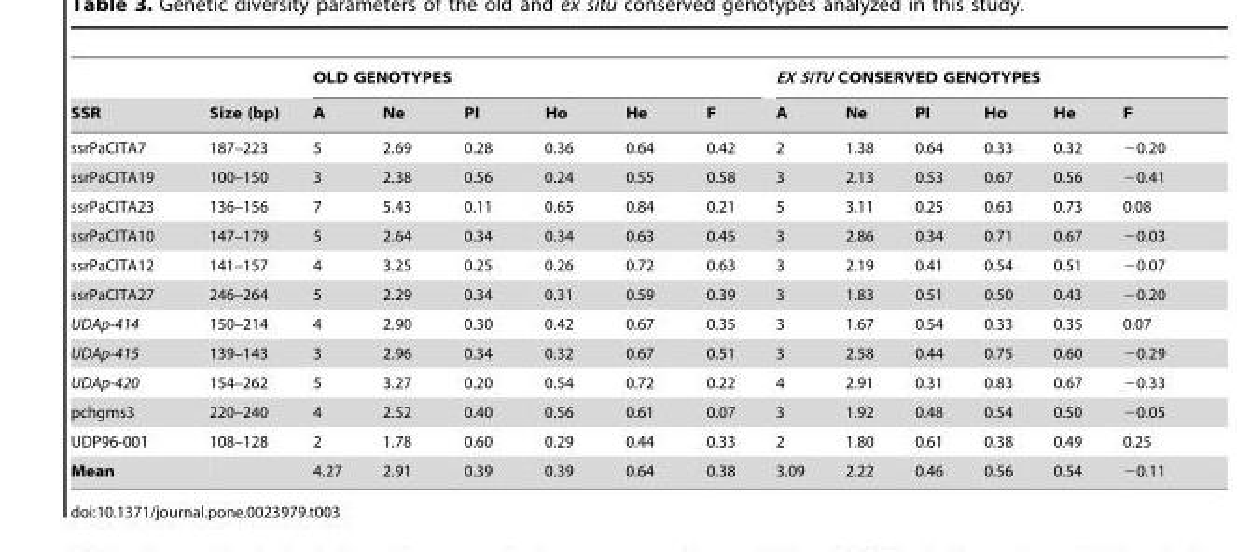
<table><thead><tr><td rowspan="2">SSR</td><td rowspan="2">Size (bp)</td><td colspan="6">OLD GENOTYPES</td><td colspan="6">EX SITU CONSERVED GENOTYPES</td></tr><tr><td>A</td><td>Ne</td><td>PI</td><td>Ho</td><td>He</td><td>F</td><td>A</td><td>Ne</td><td>PI</td><td>Ho</td><td>He</td><td>F</td></tr></thead><tbody><tr><td>ssrPaCITA7</td><td>187–223</td><td>5</td><td>2.69</td><td>0.28</td><td>0.36</td><td>0.64</td><td>0.42</td><td>2</td><td>1.38</td><td>0.64</td><td>0.33</td><td>0.32</td><td>−0.20</td></tr><tr><td>ssrPaCITA19</td><td>100–150</td><td>3</td><td>2.38</td><td>0.56</td><td>0.24</td><td>0.55</td><td>0.58</td><td>3</td><td>2.13</td><td>0.53</td><td>0.67</td><td>0.56</td><td>−0.41</td></tr><tr><td>ssrPaCITA23</td><td>136–156</td><td>7</td><td>5.43</td><td>0.11</td><td>0.65</td><td>0.84</td><td>0.21</td><td>5</td><td>3.11</td><td>0.25</td><td>0.63</td><td>0.73</td><td>0.08</td></tr><tr><td>ssrPaCITA10</td><td>147–179</td><td>5</td><td>2.64</td><td>0.34</td><td>0.34</td><td>0.63</td><td>0.45</td><td>3</td><td>2.86</td><td>0.34</td><td>0.71</td><td>0.67</td><td>−0.03</td></tr><tr><td>ssrPaCITA12</td><td>141–157</td><td>4</td><td>3.25</td><td>0.25</td><td>0.26</td><td>0.72</td><td>0.63</td><td>3</td><td>2.19</td><td>0.41</td><td>0.54</td><td>0.51</td><td>−0.07</td></tr><tr><td>ssrPaCITA27</td><td>246–264</td><td>5</td><td>2.29</td><td>0.34</td><td>0.31</td><td>0.59</td><td>0.39</td><td>3</td><td>1.83</td><td>0.51</td><td>0.50</td><td>0.43</td><td>−0.20</td></tr><tr><td>UDAp-414</td><td>150–214</td><td>4</td><td>2.90</td><td>0.30</td><td>0.42</td><td>0.67</td><td>0.35</td><td>3</td><td>1.67</td><td>0.54</td><td>0.33</td><td>0.35</td><td>0.07</td></tr><tr><td>UDAp-415</td><td>139–143</td><td>3</td><td>2.96</td><td>0.34</td><td>0.32</td><td>0.67</td><td>0.51</td><td>3</td><td>2.58</td><td>0.44</td><td>0.75</td><td>0.60</td><td>−0.29</td></tr><tr><td>UDAp-420</td><td>154–262</td><td>5</td><td>3.27</td><td>0.20</td><td>0.54</td><td>0.72</td><td>0.22</td><td>4</td><td>2.91</td><td>0.31</td><td>0.83</td><td>0.67</td><td>−0.33</td></tr><tr><td>pchgms3</td><td>220–240</td><td>4</td><td>2.52</td><td>0.40</td><td>0.56</td><td>0.61</td><td>0.07</td><td>3</td><td>1.92</td><td>0.48</td><td>0.54</td><td>0.50</td><td>−0.05</td></tr><tr><td>UDP96-001</td><td>108–128</td><td>2</td><td>1.78</td><td>0.60</td><td>0.29</td><td>0.44</td><td>0.33</td><td>2</td><td>1.80</td><td>0.61</td><td>0.38</td><td>0.49</td><td>0.25</td></tr><tr><td>Mean</td><td></td><td>4.27</td><td>2.91</td><td>0.39</td><td>0.39</td><td>0.64</td><td>0.38</td><td>3.09</td><td>2.22</td><td>0.46</td><td>0.56</td><td>0.54</td><td>−0.11</td></tr></tbody></table>